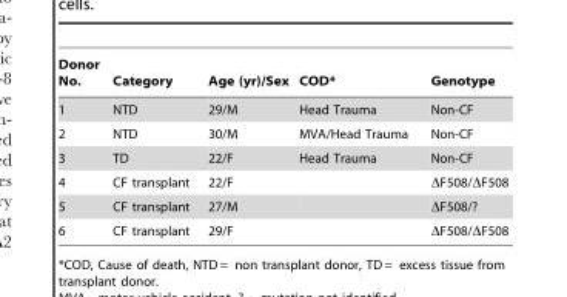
<table><thead><tr><td>Donor No.</td><td>Category</td><td>Age (yr)/Sex</td><td>COD*</td><td>Genotype</td></tr></thead><tbody><tr><td>1</td><td>NTD</td><td>29/M</td><td>Head Trauma</td><td>Non-CF</td></tr><tr><td>2</td><td>NTD</td><td>30/M</td><td>MVA/Head Trauma</td><td>Non-CF</td></tr><tr><td>3</td><td>TD</td><td>22/F</td><td>Head Trauma</td><td>Non-CF</td></tr><tr><td>4</td><td>CF transplant</td><td>22/F</td><td></td><td>ΔF508/ΔF508</td></tr><tr><td>5</td><td>CF transplant</td><td>27/M</td><td></td><td>ΔF508/?</td></tr><tr><td>6</td><td>CF transplant</td><td>29/F</td><td></td><td>ΔF508/ΔF508</td></tr></tbody></table>